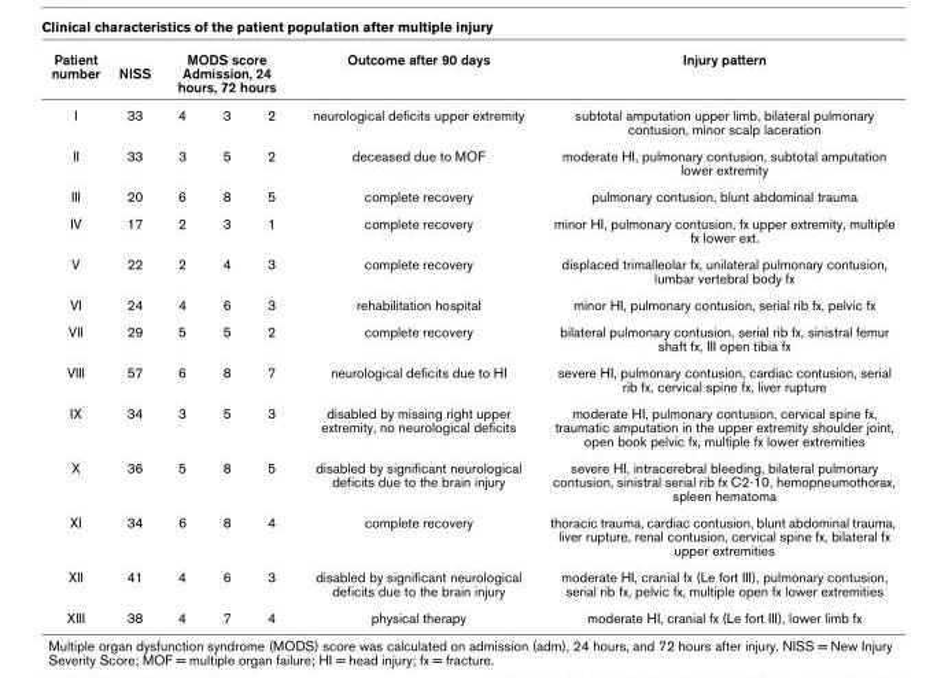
<table><thead><tr><td rowspan="2">Patient number I</td><td rowspan="2">NISS 33</td><td colspan="3">MODS score Admission, 24 hours, 72 hours</td><td rowspan="2">Outcome after 90 days neurological deficits upper extremity</td><td rowspan="2">Injury pattern subtotal amputation upper limb, bilateral pulmonary contusion, minor scalp laceration</td></tr><tr><td>4</td><td>3</td><td>2</td></tr></thead><tbody><tr><td>II</td><td>33</td><td>3</td><td>5</td><td>2</td><td>deceased due to MOF</td><td>moderate HI, pulmonary contusion, subtotal amputation lower extremity</td></tr><tr><td>III</td><td>20</td><td>6</td><td>8</td><td>5</td><td>complete recovery</td><td>pulmonary contusion, blunt abdominal trauma</td></tr><tr><td>IV</td><td>17</td><td>2</td><td>3</td><td>1</td><td>complete recovery</td><td>minor HI, pulmonary contusion, fx upper extremity, multiple fx lower ext.</td></tr><tr><td>V</td><td>22</td><td>2</td><td>4</td><td>3</td><td>complete recovery</td><td>displaced trimalleolar fx, unilateral pulmonary contusion, lumbar vertebral body fx</td></tr><tr><td>VI</td><td>24</td><td>4</td><td>6</td><td>3</td><td>rehabilitation hospital</td><td>minor HI, pulmonary contusion, serial rib fx, pelvic fx</td></tr><tr><td>VII</td><td>29</td><td>5</td><td>5</td><td>2</td><td>complete recovery</td><td>bilateral pulmonary contusion, serial rib fx, sinistral femur shaft fx, III open tibia fx</td></tr><tr><td>VIII</td><td>57</td><td>6</td><td>8</td><td>7</td><td>neurological deficits due to HI</td><td>severe HI, pulmonary contusion, cardiac contusion, serial rib fx, cervical spine fx, liver rupture</td></tr><tr><td>IX</td><td>34</td><td>3</td><td>5</td><td>3</td><td>disabled by missing right upper extremity, no neurological deficits</td><td>moderate HI, pulmonary contusion, cervical spine fx, traumatic amputation in the upper extremity shoulder joint, open book pelvic fx, multiple fx lower extremities</td></tr><tr><td>X</td><td>36</td><td>5</td><td>8</td><td>5</td><td>disabled by significant neurological deficits due to the brain injury</td><td>severe HI, intracerebral bleeding, bilateral pulmonary contusion, sinistral serial rib fx C2-10, hemopneumothorax, spleen hematoma</td></tr><tr><td>XI</td><td>34</td><td>6</td><td>8</td><td>4</td><td>complete recovery</td><td>thoracic trauma, cardiac contusion, blunt abdominal trauma, liver rupture, renal contusion, cervical spine fx, bilateral fx upper extremities</td></tr><tr><td>XII</td><td>41</td><td>4</td><td>6</td><td>3</td><td>disabled by significant neurological deficits due to the brain injury</td><td>moderate HI, cranial fx (Le fort III), pulmonary contusion, serial rib fx, pelvic fx, multiple open fx lower extremities</td></tr><tr><td>XIII</td><td>38</td><td>4</td><td>7</td><td>4</td><td>physical therapy</td><td>moderate HI, cranial fx (Le fort III), lower limb fx</td></tr></tbody></table>